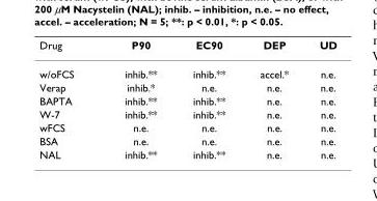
<table><thead><tr><td>Drug</td><td>P90</td><td>EC90</td><td>DEP</td><td>UD</td></tr></thead><tbody><tr><td>w/oFCS</td><td>inhib.**</td><td>inhib.**</td><td>accel.*</td><td>n.e.</td></tr><tr><td>Verap</td><td>inhib.*</td><td>n.e.</td><td>n.e.</td><td>n.e.</td></tr><tr><td>BAPTA</td><td>inhib.**</td><td>inhib.**</td><td>n.e.</td><td>n.e.</td></tr><tr><td>W-7</td><td>inhib.**</td><td>inhib.**</td><td>n.e.</td><td>n.e.</td></tr><tr><td>wFCS</td><td>n.e.</td><td>n.e.</td><td>n.e.</td><td>n.e.</td></tr><tr><td>BSA</td><td>n.e.</td><td>n.e.</td><td>n.e.</td><td>n.e.</td></tr><tr><td>NAL</td><td>inhib.**</td><td>inhib.**</td><td>n.e.</td><td>n.e.</td></tr></tbody></table>